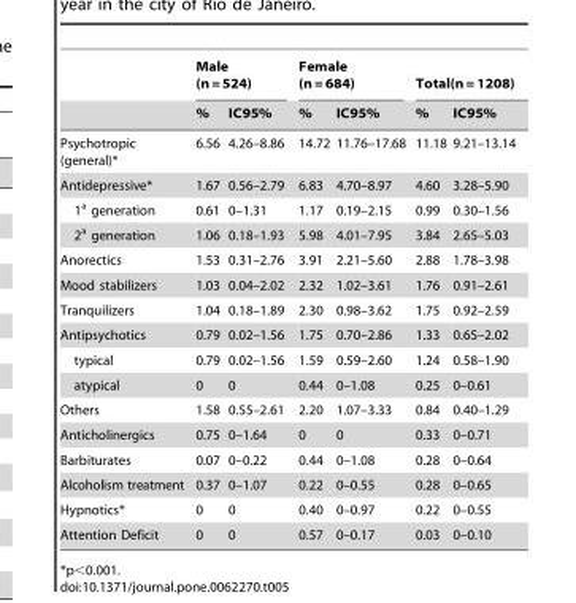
<table><thead><tr><td rowspan="2"></td><td colspan="2">Male (n = 524)</td><td colspan="2">Female (n = 684)</td><td colspan="2">Total(n = 1208)</td></tr><tr><td>%</td><td>IC95%</td><td>%</td><td>IC95%</td><td>%</td><td>IC95%</td></tr></thead><tbody><tr><td>Psychotropic (general)*</td><td>6.56</td><td>4.26–8.86</td><td>14.72</td><td>11.76–17.68</td><td>11.18</td><td>9.21–13.14</td></tr><tr><td>Antidepressive*</td><td>1.67</td><td>0.56–2.79</td><td>6.83</td><td>4.70–8.97</td><td>4.60</td><td>3.28–5.90</td></tr><tr><td>1<sup>a</sup> generation</td><td>0.61</td><td>0–1.31</td><td>1.17</td><td>0.19–2.15</td><td>0.99</td><td>0.30–1.56</td></tr><tr><td>2<sup>a</sup> generation</td><td>1.06</td><td>0.18–1.93</td><td>5.98</td><td>4.01–7.95</td><td>3.84</td><td>2.65–5.03</td></tr><tr><td>Anorectics</td><td>1.53</td><td>0.31–2.76</td><td>3.91</td><td>2.21–5.60</td><td>2.88</td><td>1.78–3.98</td></tr><tr><td>Mood stabilizers</td><td>1.03</td><td>0.04–2.02</td><td>2.32</td><td>1.02–3.61</td><td>1.76</td><td>0.91–2.61</td></tr><tr><td>Tranquilizers</td><td>1.04</td><td>0.18–1.89</td><td>2.30</td><td>0.98–3.62</td><td>1.75</td><td>0.92–2.59</td></tr><tr><td>Antipsychotics</td><td>0.79</td><td>0.02–1.56</td><td>1.75</td><td>0.70–2.86</td><td>1.33</td><td>0.65–2.02</td></tr><tr><td>typical</td><td>0.79</td><td>0.02–1.56</td><td>1.59</td><td>0.59–2.60</td><td>1.24</td><td>0.58–1.90</td></tr><tr><td>atypical</td><td>0</td><td>0</td><td>0.44</td><td>0–1.08</td><td>0.25</td><td>0–0.61</td></tr><tr><td>Others</td><td>1.58</td><td>0.55–2.61</td><td>2.20</td><td>1.07–3.33</td><td>0.84</td><td>0.40–1.29</td></tr><tr><td>Anticholinergics</td><td>0.75</td><td>0–1.64</td><td>0</td><td>0</td><td>0.33</td><td>0–0.71</td></tr><tr><td>Barbiturates</td><td>0.07</td><td>0–0.22</td><td>0.44</td><td>0–1.08</td><td>0.28</td><td>0–0.64</td></tr><tr><td>Alcoholism treatment</td><td>0.37</td><td>0–1.07</td><td>0.22</td><td>0–0.55</td><td>0.28</td><td>0–0.65</td></tr><tr><td>Hypnotics*</td><td>0</td><td>0</td><td>0.40</td><td>0–0.97</td><td>0.22</td><td>0–0.55</td></tr><tr><td>Attention Deficit</td><td>0</td><td>0</td><td>0.57</td><td>0–0.17</td><td>0.03</td><td>0–0.10</td></tr></tbody></table>